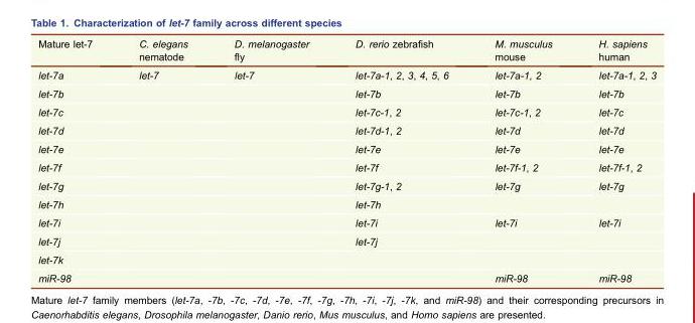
<table><thead><tr><td>Mature let-7</td><td>C. elegans nematode</td><td>D. melanogaster fly</td><td>D. rerio zebrafish</td><td>M. musculus mouse</td><td>H. sapiens human</td></tr></thead><tbody><tr><td>let-7a</td><td>let-7</td><td>let-7</td><td>let-7a-1, 2, 3, 4, 5, 6</td><td>let-7a-1, 2</td><td>let-7a-1, 2, 3</td></tr><tr><td>let-7b</td><td></td><td></td><td>let-7b</td><td>let-7b</td><td>let-7b</td></tr><tr><td>let-7c</td><td></td><td></td><td>let-7c-1, 2</td><td>let-7c-1, 2</td><td>let-7c</td></tr><tr><td>let-7d</td><td></td><td></td><td>let-7d-1, 2</td><td>let-7d</td><td>let-7d</td></tr><tr><td>let-7e</td><td></td><td></td><td>let-7e</td><td>let-7e</td><td>let-7e</td></tr><tr><td>let-7f</td><td></td><td></td><td>let-7f</td><td>let-7f-1, 2</td><td>let-7f-1, 2</td></tr><tr><td>let-7g</td><td></td><td></td><td>let-7g-1, 2</td><td>let-7g</td><td>let-7g</td></tr><tr><td>let-7h</td><td></td><td></td><td>let-7h</td><td></td><td></td></tr><tr><td>let-7i</td><td></td><td></td><td>let-7i</td><td>let-7i</td><td>let-7i</td></tr><tr><td>let-7j</td><td></td><td></td><td>let-7j</td><td></td><td></td></tr><tr><td colspan="6">let-7k</td></tr><tr><td>miR-98</td><td></td><td></td><td></td><td>miR-98</td><td>miR-98</td></tr></tbody></table>